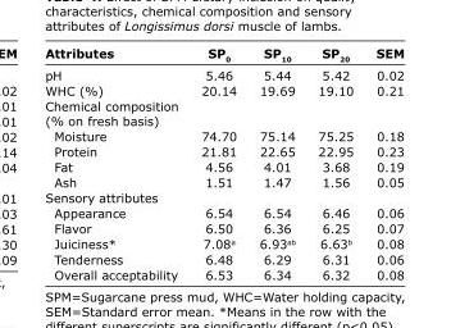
<table><thead><tr><td>Attributes</td><td>SP<sub>0</sub></td><td>SP<sub>10</sub></td><td>SP<sub>20</sub></td><td>SEM</td></tr></thead><tbody><tr><td>pH</td><td>5.46</td><td>5.44</td><td>5.42</td><td>0.02</td></tr><tr><td>WHC (%)</td><td>20.14</td><td>19.69</td><td>19.10</td><td>0.21</td></tr><tr><td colspan="5">Chemical composition (% on fresh basis)</td></tr><tr><td>Moisture</td><td>74.70</td><td>75.14</td><td>75.25</td><td>0.18</td></tr><tr><td>Protein</td><td>21.81</td><td>22.65</td><td>22.95</td><td>0.23</td></tr><tr><td>Fat</td><td>4.56</td><td>4.01</td><td>3.68</td><td>0.19</td></tr><tr><td>Ash</td><td>1.51</td><td>1.47</td><td>1.56</td><td>0.05</td></tr><tr><td colspan="5">Sensory attributes</td></tr><tr><td>Appearance</td><td>6.54</td><td>6.54</td><td>6.46</td><td>0.06</td></tr><tr><td>Flavor</td><td>6.50</td><td>6.36</td><td>6.25</td><td>0.07</td></tr><tr><td>Juiciness*</td><td>7.08<sup>a</sup></td><td>6.93<sup>ab</sup></td><td>6.63<sup>b</sup></td><td>0.08</td></tr><tr><td>Tenderness</td><td>6.48</td><td>6.29</td><td>6.31</td><td>0.06</td></tr><tr><td>Overall acceptability</td><td>6.53</td><td>6.34</td><td>6.32</td><td>0.08</td></tr></tbody></table>